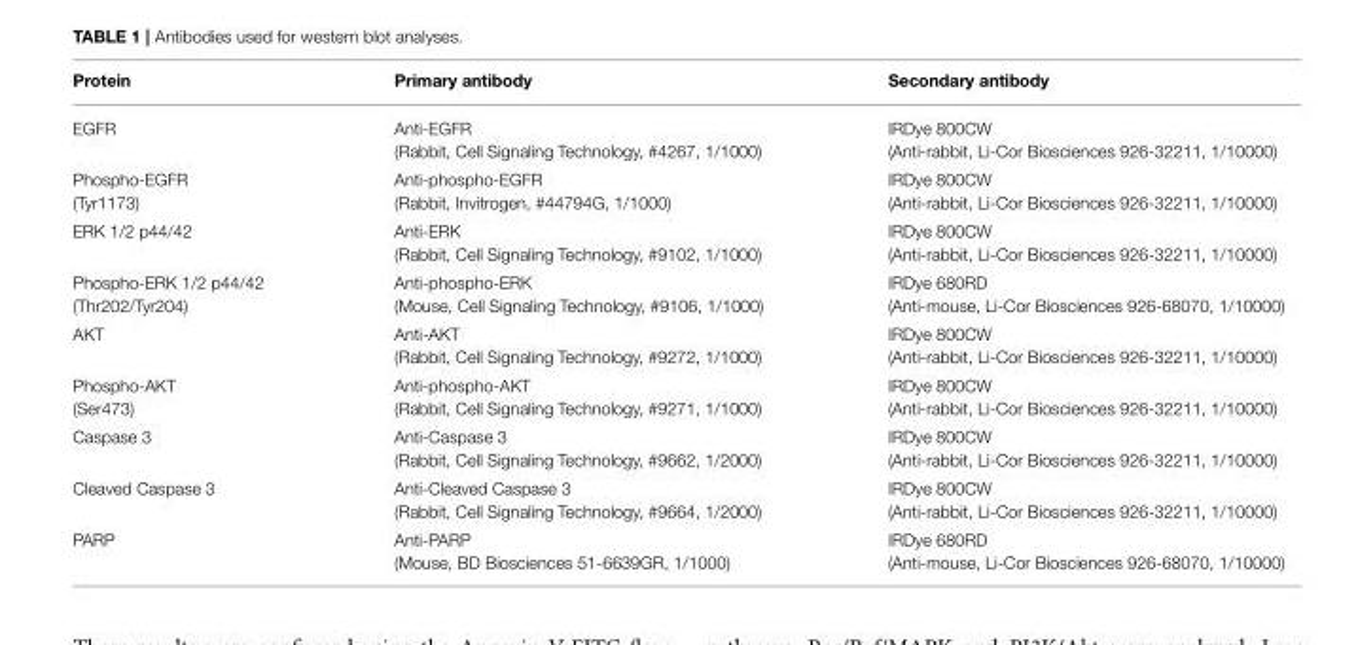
<table><thead><tr><td>Protein</td><td>Primary antibody</td><td>Secondary antibody</td></tr></thead><tbody><tr><td>EGFR</td><td>Anti-EGFR (Rabbit, Cell Signaling Technology, #4267, 1/1000)</td><td>IRDye 800CW (Anti-rabbit, Li-Cor Biosciences 926-32211, 1/10000)</td></tr><tr><td>Phospho-EGFR (Tyr1173)</td><td>Anti-phospho-EGFR (Rabbit, Invitrogen, #44794G, 1/1000)</td><td>IRDye 800CW (Anti-rabbit, Li-Cor Biosciences 926-32211, 1/10000)</td></tr><tr><td>ERK 1/2 p44/42</td><td>Anti-ERK (Rabbit, Cell Signaling Technology, #9102, 1/1000)</td><td>IRDye 800CW (Anti-rabbit, Li-Cor Biosciences 926-32211, 1/10000)</td></tr><tr><td>Phospho-ERK 1/2 p44/42 (Thr202/Tyr204)</td><td>Anti-phospho-ERK (Mouse, Cell Signaling Technology, #9106, 1/1000)</td><td>IRDye 680RD (Anti-mouse, Li-Cor Biosciences 926-68070, 1/10000)</td></tr><tr><td>AKT</td><td>Anti-AKT (Rabbit, Cell Signaling Technology, #9272, 1/1000)</td><td>IRDye 800CW (Anti-rabbit, Li-Cor Biosciences 926-32211, 1/10000)</td></tr><tr><td>Phospho-AKT (Ser473)</td><td>Anti-phospho-AKT (Rabbit, Cell Signaling Technology, #9271, 1/1000)</td><td>IRDye 800CW (Anti-rabbit, Li-Cor Biosciences 926-32211, 1/10000)</td></tr><tr><td>Caspase 3</td><td>Anti-Caspase 3 (Rabbit, Cell Signaling Technology, #9662, 1/2000)</td><td>IRDye 800CW (Anti-rabbit, Li-Cor Biosciences 926-32211, 1/10000)</td></tr><tr><td>Cleaved Caspase 3</td><td>Anti-Cleaved Caspase 3 (Rabbit, Cell Signaling Technology, #9664, 1/2000)</td><td>IRDye 800CW (Anti-rabbit, Li-Cor Biosciences 926-32211, 1/10000)</td></tr><tr><td>PARP</td><td>Anti-PARP (Mouse, BD Biosciences 51-6639GR, 1/1000)</td><td>IRDye 680RD (Anti-mouse, Li-Cor Biosciences 926-68070, 1/10000)</td></tr></tbody></table>